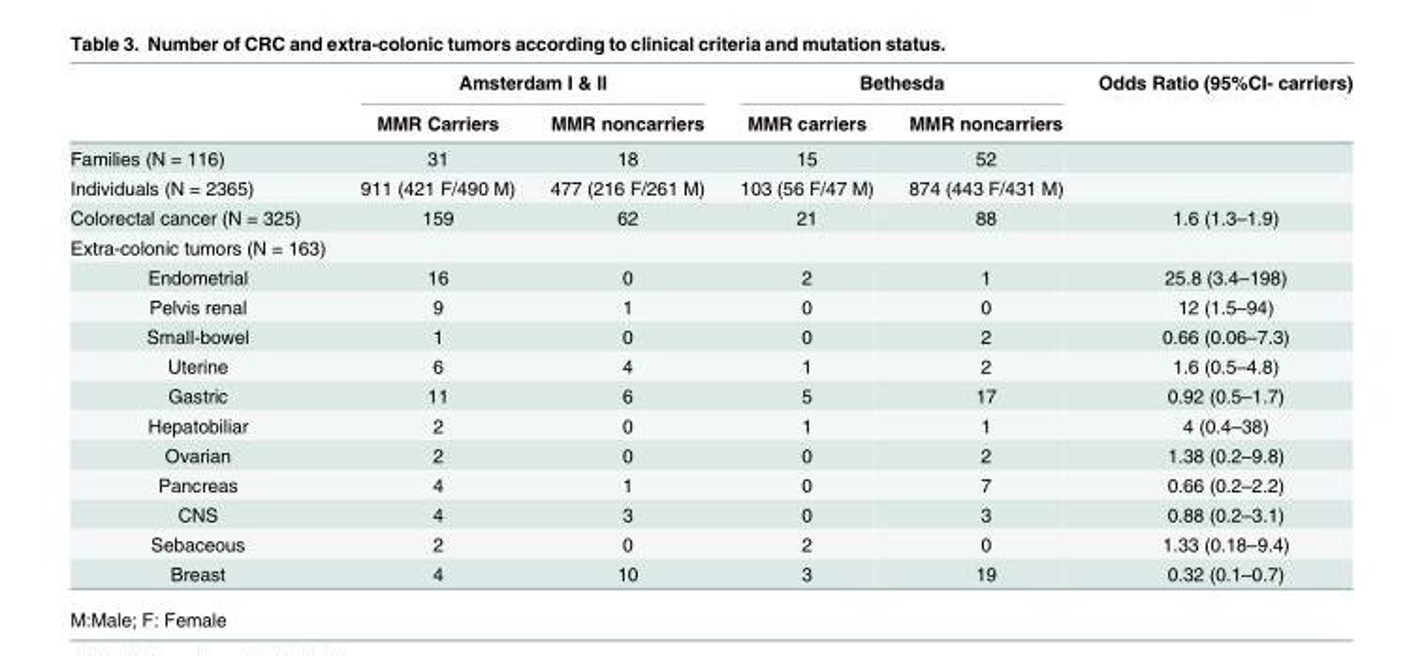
<table><thead><tr><td rowspan="2"></td><td colspan="2">Amsterdam I &amp; II</td><td colspan="2">Bethesda</td><td rowspan="2">Odds Ratio (95%CI- carriers)</td></tr><tr><td>MMR Carriers</td><td>MMR noncarriers</td><td>MMR carriers</td><td>MMR noncarriers</td></tr></thead><tbody><tr><td>Families (N = 116)</td><td>31</td><td>18</td><td>15</td><td>52</td><td></td></tr><tr><td>Individuals (N = 2365)</td><td>911 (421 F/490 M)</td><td>477 (216 F/261 M)</td><td>103 (56 F/47 M)</td><td>874 (443 F/431 M)</td><td></td></tr><tr><td>Colorectal cancer (N = 325)</td><td>159</td><td>62</td><td>21</td><td>88</td><td>1.6 (1.3–1.9)</td></tr><tr><td colspan="6">Extra-colonic tumors (N = 163)</td></tr><tr><td>Endometrial</td><td>16</td><td>0</td><td>2</td><td>1</td><td>25.8 (3.4–198)</td></tr><tr><td>Pelvis renal</td><td>9</td><td>1</td><td>0</td><td>0</td><td>12 (1.5–94)</td></tr><tr><td>Small-bowel</td><td>1</td><td>0</td><td>0</td><td>2</td><td>0.66 (0.06–7.3)</td></tr><tr><td>Uterine</td><td>6</td><td>4</td><td>1</td><td>2</td><td>1.6 (0.5–4.8)</td></tr><tr><td>Gastric</td><td>11</td><td>6</td><td>5</td><td>17</td><td>0.92 (0.5–1.7)</td></tr><tr><td>Hepatobiliar</td><td>2</td><td>0</td><td>1</td><td>1</td><td>4 (0.4–38)</td></tr><tr><td>Ovarian</td><td>2</td><td>0</td><td>0</td><td>2</td><td>1.38 (0.2–9.8)</td></tr><tr><td>Pancreas</td><td>4</td><td>1</td><td>0</td><td>7</td><td>0.66 (0.2–2.2)</td></tr><tr><td>CNS</td><td>4</td><td>3</td><td>0</td><td>3</td><td>0.88 (0.2–3.1)</td></tr><tr><td>Sebaceous</td><td>2</td><td>0</td><td>2</td><td>0</td><td>1.33 (0.18–9.4)</td></tr><tr><td>Breast</td><td>4</td><td>10</td><td>3</td><td>19</td><td>0.32 (0.1–0.7)</td></tr></tbody></table>